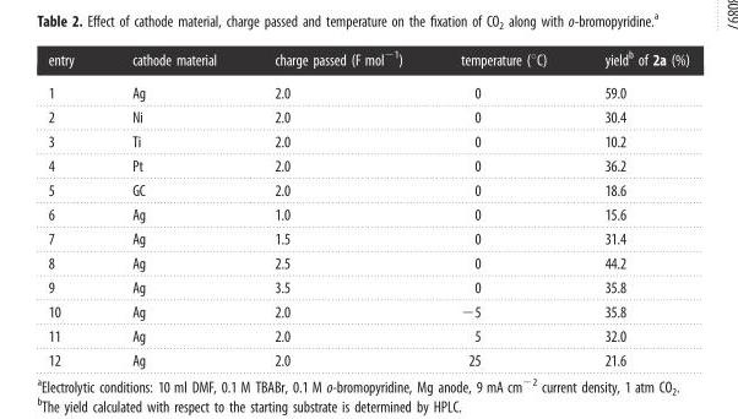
<table><thead><tr><td>entry</td><td>cathode material</td><td>charge passed (F mol<sup>−1</sup>)</td><td>temperature (°C)</td><td>yield<sup>b</sup> of 2a (%)</td></tr></thead><tbody><tr><td>1</td><td>Ag</td><td>2.0</td><td>0</td><td>59.0</td></tr><tr><td>2</td><td>Ni</td><td>2.0</td><td>0</td><td>30.4</td></tr><tr><td>3</td><td>Ti</td><td>2.0</td><td>0</td><td>10.2</td></tr><tr><td>4</td><td>Pt</td><td>2.0</td><td>0</td><td>36.2</td></tr><tr><td>5</td><td>GC</td><td>2.0</td><td>0</td><td>18.6</td></tr><tr><td>6</td><td>Ag</td><td>1.0</td><td>0</td><td>15.6</td></tr><tr><td>7</td><td>Ag</td><td>1.5</td><td>0</td><td>31.4</td></tr><tr><td>8</td><td>Ag</td><td>2.5</td><td>0</td><td>44.2</td></tr><tr><td>9</td><td>Ag</td><td>3.5</td><td>0</td><td>35.8</td></tr><tr><td>10</td><td>Ag</td><td>2.0</td><td>−5</td><td>35.8</td></tr><tr><td>11</td><td>Ag</td><td>2.0</td><td>5</td><td>32.0</td></tr><tr><td>12</td><td>Ag</td><td>2.0</td><td>25</td><td>21.6</td></tr></tbody></table>